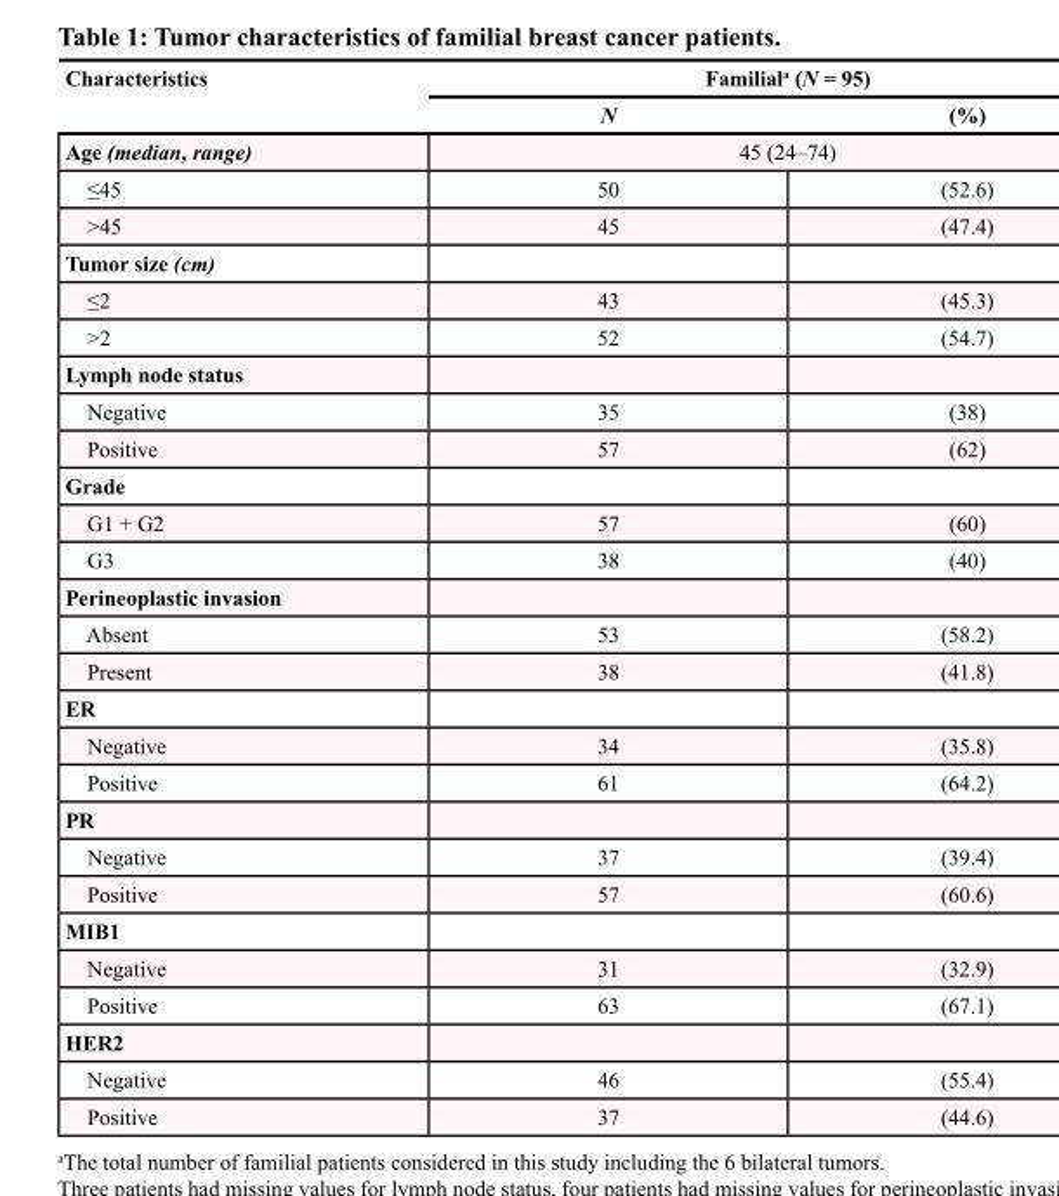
<table><thead><tr><td rowspan="2">Characteristics</td><td colspan="2">Familial<sup>a</sup> (N = 95)</td></tr><tr><td>N</td><td>(%)</td></tr></thead><tbody><tr><td>Age (median, range)</td><td colspan="2">45 (24–74)</td></tr><tr><td>≤45</td><td>50</td><td>(52.6)</td></tr><tr><td>&gt;45</td><td>45</td><td>(47.4)</td></tr><tr><td colspan="3">Tumor size (cm)</td></tr><tr><td>≤2</td><td>43</td><td>(45.3)</td></tr><tr><td>&gt;2</td><td>52</td><td>(54.7)</td></tr><tr><td colspan="3">Lymph node status</td></tr><tr><td>Negative</td><td>35</td><td>(38)</td></tr><tr><td>Positive</td><td>57</td><td>(62)</td></tr><tr><td colspan="3">Grade</td></tr><tr><td>G1 + G2</td><td>57</td><td>(60)</td></tr><tr><td>G3</td><td>38</td><td>(40)</td></tr><tr><td colspan="3">Perineoplastic invasion</td></tr><tr><td>Absent</td><td>53</td><td>(58.2)</td></tr><tr><td>Present</td><td>38</td><td>(41.8)</td></tr><tr><td colspan="3">ER</td></tr><tr><td>Negative</td><td>34</td><td>(35.8)</td></tr><tr><td>Positive</td><td>61</td><td>(64.2)</td></tr><tr><td colspan="3">PR</td></tr><tr><td>Negative</td><td>37</td><td>(39.4)</td></tr><tr><td>Positive</td><td>57</td><td>(60.6)</td></tr><tr><td colspan="3">MIB1</td></tr><tr><td>Negative</td><td>31</td><td>(32.9)</td></tr><tr><td>Positive</td><td>63</td><td>(67.1)</td></tr><tr><td colspan="3">HER2</td></tr><tr><td>Negative</td><td>46</td><td>(55.4)</td></tr><tr><td>Positive</td><td>37</td><td>(44.6)</td></tr></tbody></table>